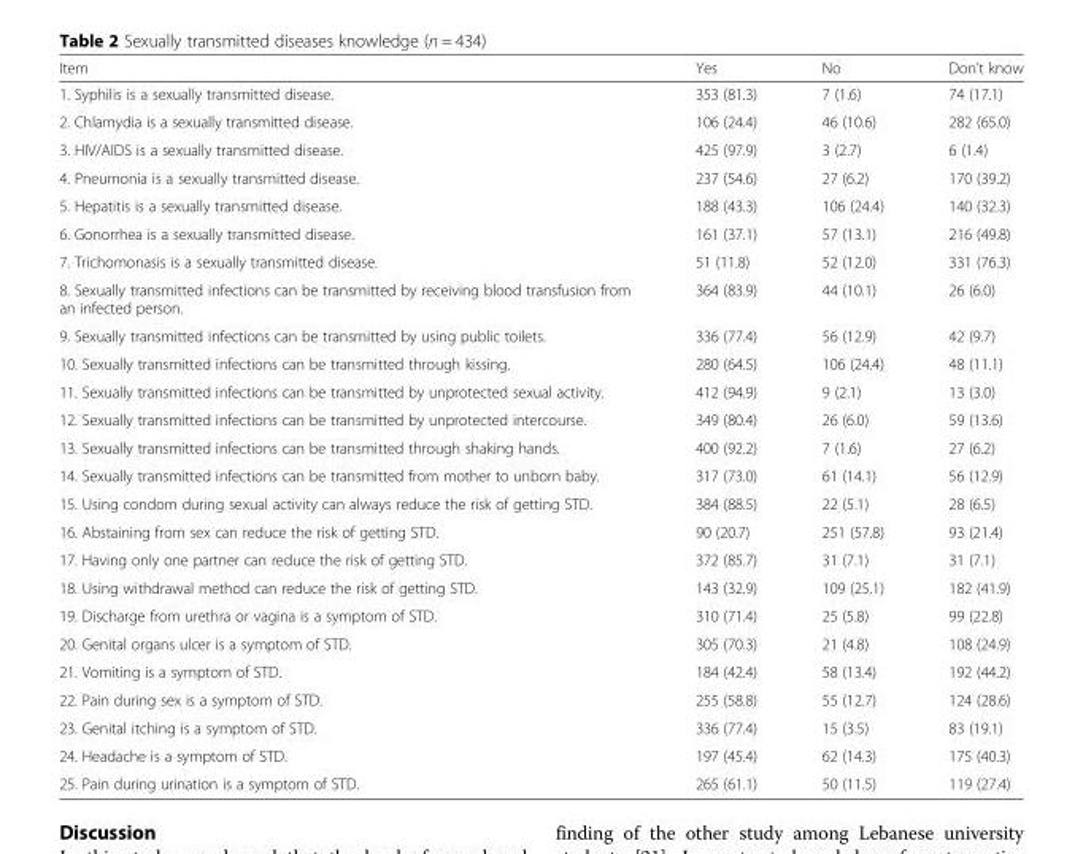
<table><thead><tr><td>Item</td><td>Yes</td><td>No</td><td>Don’t know</td></tr></thead><tbody><tr><td>1. Syphilis is a sexually transmitted disease.</td><td>353 (81.3)</td><td>7 (1.6)</td><td>74 (17.1)</td></tr><tr><td>2. Chlamydia is a sexually transmitted disease.</td><td>106 (24.4)</td><td>46 (10.6)</td><td>282 (65.0)</td></tr><tr><td>3. HIV/AIDS is a sexually transmitted disease.</td><td>425 (97.9)</td><td>3 (2.7)</td><td>6 (1.4)</td></tr><tr><td>4. Pneumonia is a sexually transmitted disease.</td><td>237 (54.6)</td><td>27 (6.2)</td><td>170 (39.2)</td></tr><tr><td>5. Hepatitis is a sexually transmitted disease.</td><td>188 (43.3)</td><td>106 (24.4)</td><td>140 (32.3)</td></tr><tr><td>6. Gonorrhea is a sexually transmitted disease.</td><td>161 (37.1)</td><td>57 (13.1)</td><td>216 (49.8)</td></tr><tr><td>7. Trichomonasis is a sexually transmitted disease.</td><td>51 (11.8)</td><td>52 (12.0)</td><td>331 (76.3)</td></tr><tr><td>8. Sexually transmitted infections can be transmitted by receiving blood transfusion from an infected person.</td><td>364 (83.9)</td><td>44 (10.1)</td><td>26 (6.0)</td></tr><tr><td>9. Sexually transmitted infections can be transmitted by using public toilets.</td><td>336 (77.4)</td><td>56 (12.9)</td><td>42 (9.7)</td></tr><tr><td>10. Sexually transmitted infections can be transmitted through kissing.</td><td>280 (64.5)</td><td>106 (24.4)</td><td>48 (11.1)</td></tr><tr><td>11. Sexually transmitted infections can be transmitted by unprotected sexual activity.</td><td>412 (94.9)</td><td>9 (2.1)</td><td>13 (3.0)</td></tr><tr><td>12. Sexually transmitted infections can be transmitted by unprotected intercourse.</td><td>349 (80.4)</td><td>26 (6.0)</td><td>59 (13.6)</td></tr><tr><td>13. Sexually transmitted infections can be transmitted through shaking hands.</td><td>400 (92.2)</td><td>7 (1.6)</td><td>27 (6.2)</td></tr><tr><td>14. Sexually transmitted infections can be transmitted from mother to unborn baby.</td><td>317 (73.0)</td><td>61 (14.1)</td><td>56 (12.9)</td></tr><tr><td>15. Using condom during sexual activity can always reduce the risk of getting STD.</td><td>384 (88.5)</td><td>22 (5.1)</td><td>28 (6.5)</td></tr><tr><td>16. Abstaining from sex can reduce the risk of getting STD.</td><td>90 (20.7)</td><td>251 (57.8)</td><td>93 (21.4)</td></tr><tr><td>17. Having only one partner can reduce the risk of getting STD.</td><td>372 (85.7)</td><td>31 (7.1)</td><td>31 (7.1)</td></tr><tr><td>18. Using withdrawal method can reduce the risk of getting STD.</td><td>143 (32.9)</td><td>109 (25.1)</td><td>182 (41.9)</td></tr><tr><td>19. Discharge from urethra or vagina is a symptom of STD.</td><td>310 (71.4)</td><td>25 (5.8)</td><td>99 (22.8)</td></tr><tr><td>20. Genital organs ulcer is a symptom of STD.</td><td>305 (70.3)</td><td>21 (4.8)</td><td>108 (24.9)</td></tr><tr><td>21. Vomiting is a symptom of STD.</td><td>184 (42.4)</td><td>58 (13.4)</td><td>192 (44.2)</td></tr><tr><td>22. Pain during sex is a symptom of STD.</td><td>255 (58.8)</td><td>55 (12.7)</td><td>124 (28.6)</td></tr><tr><td>23. Genital itching is a symptom of STD.</td><td>336 (77.4)</td><td>15 (3.5)</td><td>83 (19.1)</td></tr><tr><td>24. Headache is a symptom of STD.</td><td>197 (45.4)</td><td>62 (14.3)</td><td>175 (40.3)</td></tr><tr><td>25. Pain during urination is a symptom of STD.</td><td>265 (61.1)</td><td>50 (11.5)</td><td>119 (27.4)</td></tr></tbody></table>